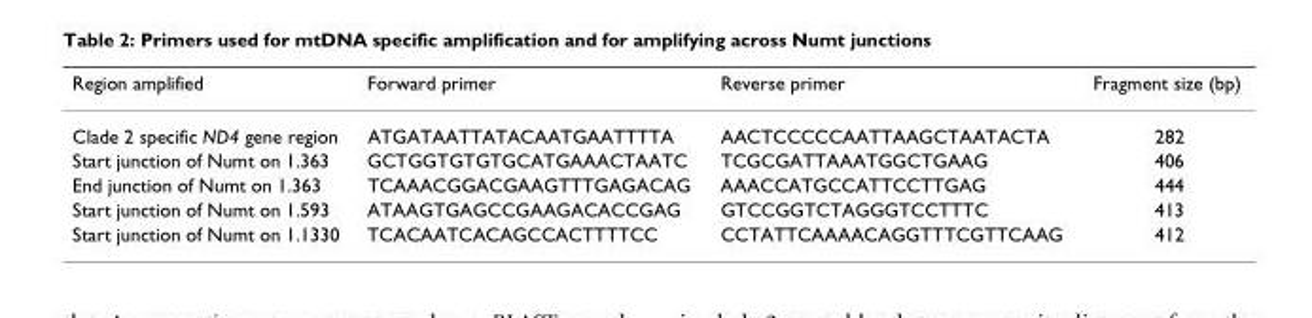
<table><thead><tr><td>Region amplified</td><td>Forward primer</td><td>Reverse primer</td><td>Fragment size (bp)</td></tr></thead><tbody><tr><td>Clade 2 specific ND4 gene region</td><td>ATGATAATTATACAATGAATTTTA</td><td>AACTCCCCCAATTAAGCTAATACTA</td><td>282</td></tr><tr><td>Start junction of Numt on 1.363</td><td>GCTGGTGTGTGCATGAAACTAATC</td><td>TCGCGATTAAATGGCTGAAG</td><td>406</td></tr><tr><td>End junction of Numt on 1.363</td><td>TCAAACGGACGAAGTTTGAGACAG</td><td>AAACCATGCCATTCCTTGAG</td><td>444</td></tr><tr><td>Start junction of Numt on 1.593</td><td>ATAAGTGAGCCGAAGACACCGAG</td><td>GTCCGGTCTAGGGTCCTTTC</td><td>413</td></tr><tr><td>Start junction of Numt on 1.1330</td><td>TCACAATCACAGCCACTTTTCC</td><td>CCTATTCAAAACAGGTTTCGTTCAAG</td><td>412</td></tr></tbody></table>